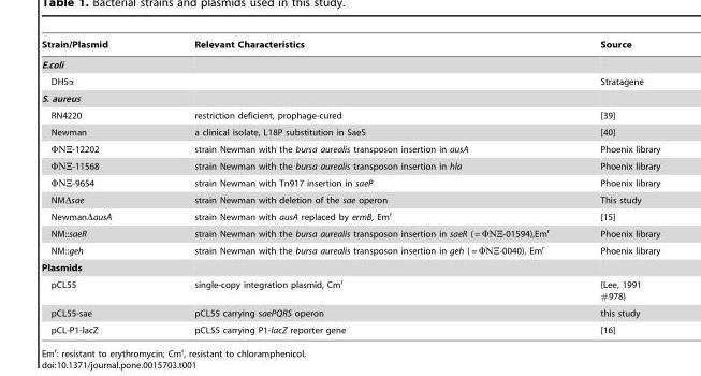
<table><thead><tr><td>Strain/Plasmid</td><td>Relevant Characteristics</td><td>Source</td></tr></thead><tbody><tr><td colspan="3">E.coli</td></tr><tr><td>DH5α</td><td></td><td>Stratagene</td></tr><tr><td colspan="3">S. aureus</td></tr><tr><td>RN4220</td><td>restriction deficient, prophage-cured</td><td>[39]</td></tr><tr><td>Newman</td><td>a clinical isolate, L18P substitution in SaeS</td><td>[40]</td></tr><tr><td>ΦNΞ-12202</td><td>strain Newman with the bursa aurealis transposon insertion in ausA</td><td>Phoenix library</td></tr><tr><td>ΦNΞ-11568</td><td>strain Newman with the bursa aurealis transposon insertion in hla</td><td>Phoenix library</td></tr><tr><td>ΦNΞ-9654</td><td>strain Newman with Tn917 insertion in saeP</td><td>Phoenix library</td></tr><tr><td>NMΔsae</td><td>strain Newman with deletion of the sae operon</td><td>This study</td></tr><tr><td>NewmanΔausA</td><td>strain Newman with ausA replaced by ermB, Em<sup>r</sup></td><td>[15]</td></tr><tr><td>NM::saeR</td><td>strain Newman with the bursa aurealis transposon insertion in saeR ( = ΦNΞ-01594),Emr</td><td>Phoenix library</td></tr><tr><td>NM::geh</td><td>strain Newman with the bursa aurealis transposon insertion in geh ( = ΦNΞ-0040), Emr</td><td>Phoenix library</td></tr><tr><td colspan="3">Plasmids</td></tr><tr><td>pCL55</td><td>single-copy integration plasmid, Cm<sup>r</sup></td><td>{Lee, 1991 #978}</td></tr><tr><td>pCL55-sae</td><td>pCL55 carrying saePQRS operon</td><td>this study</td></tr><tr><td>pCL-P1-lacZ</td><td>pCL55 carrying P1-lacZ reporter gene</td><td>[16]</td></tr></tbody></table>